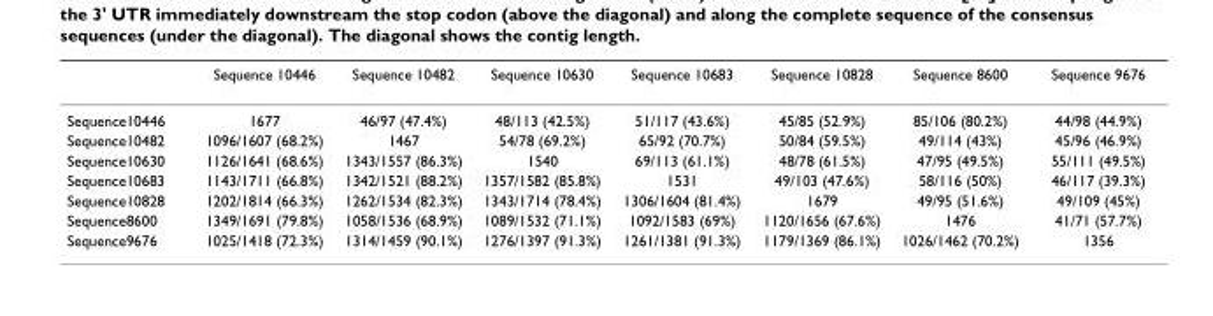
<table><thead><tr><td></td><td>Sequence 10446</td><td>Sequence 10482</td><td>Sequence 10630</td><td>Sequence 10683</td><td>Sequence 10828</td><td>Sequence 8600</td><td>Sequence 9676</td></tr></thead><tbody><tr><td>Sequence10446</td><td>1677</td><td>46/97 (47.4%)</td><td>48/113 (42.5%)</td><td>51/117 (43.6%)</td><td>45/85 (52.9%)</td><td>85/106 (80.2%)</td><td>44/98 (44.9%)</td></tr><tr><td>Sequence10482</td><td>1096/1607 (68.2%)</td><td>1467</td><td>54/78 (69.2%)</td><td>65/92 (70.7%)</td><td>50/84 (59.5%)</td><td>49/114 (43%)</td><td>45/96 (46.9%)</td></tr><tr><td>Sequence10630</td><td>1126/1641 (68.6%)</td><td>1343/1557 (86.3%)</td><td>1540</td><td>69/113 (61.1%)</td><td>48/78 (61.5%)</td><td>47/95 (49.5%)</td><td>55/111 (49.5%)</td></tr><tr><td>Sequence10683</td><td>1143/1711 (66.8%)</td><td>1342/1521 (88.2%)</td><td>1357/1582 (85.8%)</td><td>1531</td><td>49/103 (47.6%)</td><td>58/116 (50%)</td><td>46/117 (39.3%)</td></tr><tr><td>Sequence10828</td><td>1202/1814 (66.3%)</td><td>1262/1534 (82.3%)</td><td>1343/1714 (78.4%)</td><td>1306/1604 (81.4%)</td><td>1679</td><td>49/95 (51.6%)</td><td>49/109 (45%)</td></tr><tr><td>Sequence8600</td><td>1349/1691 (79.8%)</td><td>1058/1536 (68.9%)</td><td>1089/1532 (71.1%)</td><td>1092/1583 (69%)</td><td>1120/1656 (67.6%)</td><td>1476</td><td>41/71 (57.7%)</td></tr><tr><td>Sequence9676</td><td>1025/1418 (72.3%)</td><td>1314/1459 (90.1%)</td><td>1276/1397 (91.3%)</td><td>1261/1381 (91.3%)</td><td>1179/1369 (86.1%)</td><td>1026/1462 (70.2%)</td><td>1356</td></tr></tbody></table>